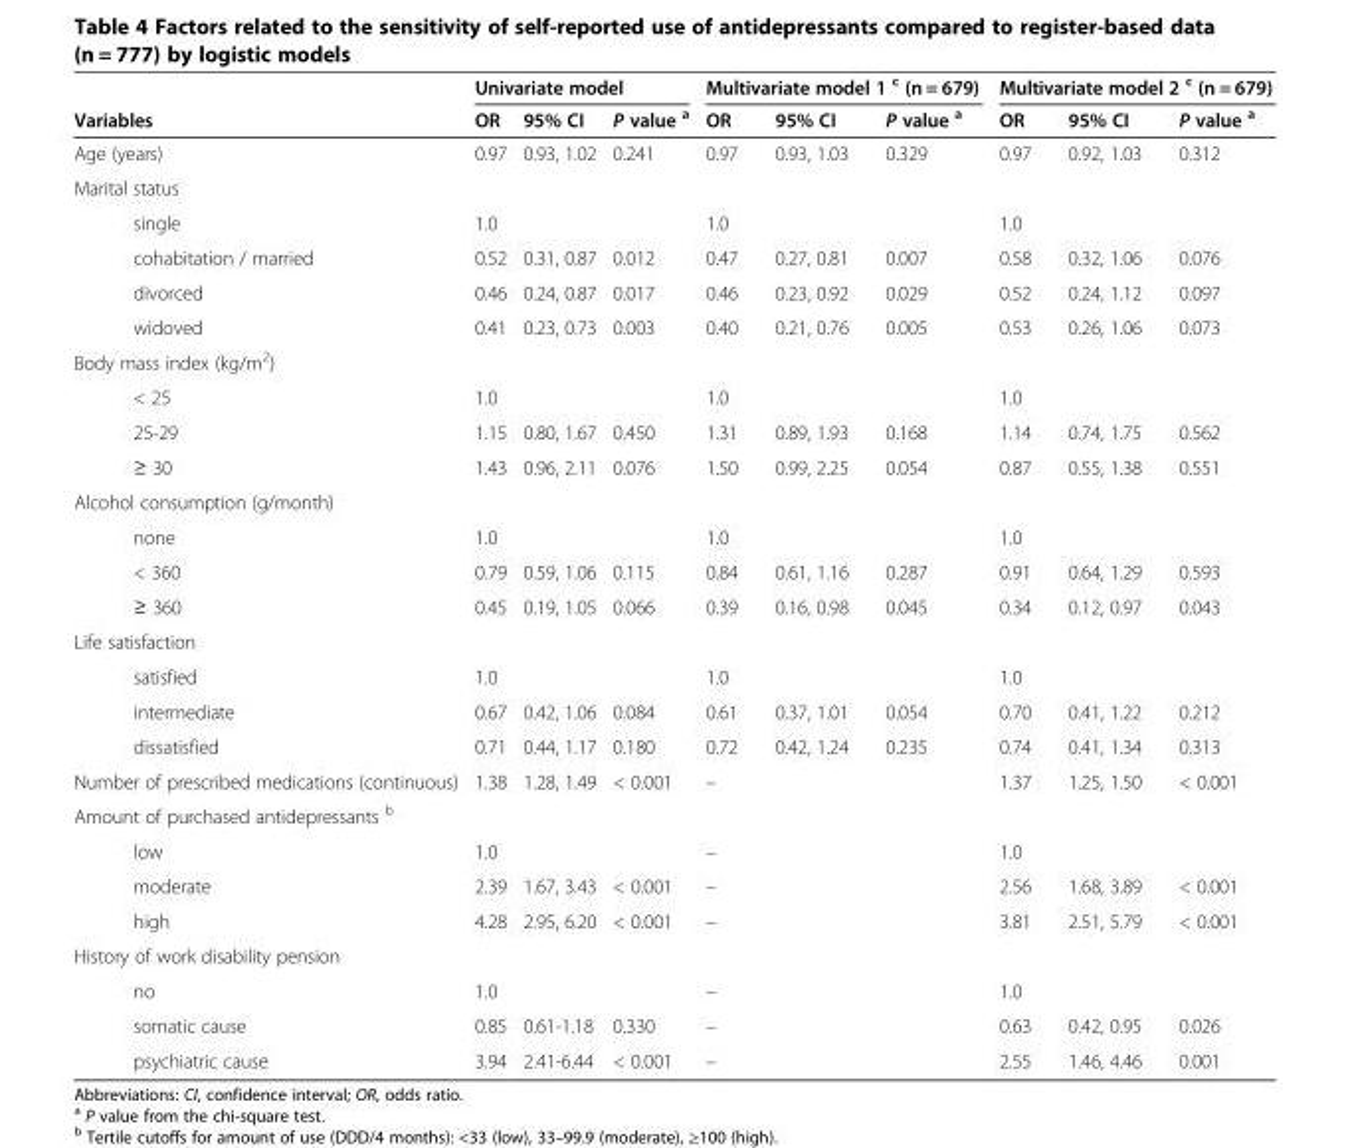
<table><thead><tr><td rowspan="2">Variables</td><td colspan="3">Univariate model</td><td colspan="3">Multivariate model 1 <sup>c</sup> (n = 679)</td><td colspan="3">Multivariate model 2 <sup>c</sup> (n = 679)</td></tr><tr><td>OR</td><td>95% CI</td><td>P value <sup>a</sup></td><td>OR</td><td>95% CI</td><td>P value <sup>a</sup></td><td>OR</td><td>95% CI</td><td>P value <sup>a</sup></td></tr></thead><tbody><tr><td>Age (years)</td><td>0.97</td><td>0.93, 1.02</td><td>0.241</td><td>0.97</td><td>0.93, 1.03</td><td>0.329</td><td>0.97</td><td>0.92, 1.03</td><td>0.312</td></tr><tr><td colspan="10">Marital status</td></tr><tr><td>single</td><td>1.0</td><td></td><td></td><td>1.0</td><td></td><td></td><td>1.0</td><td></td><td></td></tr><tr><td>cohabitation / married</td><td>0.52</td><td>0.31, 0.87</td><td>0.012</td><td>0.47</td><td>0.27, 0.81</td><td>0.007</td><td>0.58</td><td>0.32, 1.06</td><td>0.076</td></tr><tr><td>divorced</td><td>0.46</td><td>0.24, 0.87</td><td>0.017</td><td>0.46</td><td>0.23, 0.92</td><td>0.029</td><td>0.52</td><td>0.24, 1.12</td><td>0.097</td></tr><tr><td>widoved</td><td>0.41</td><td>0.23, 0.73</td><td>0.003</td><td>0.40</td><td>0.21, 0.76</td><td>0.005</td><td>0.53</td><td>0.26, 1.06</td><td>0.073</td></tr><tr><td colspan="10">Body mass index (kg/m<sup>2</sup>)</td></tr><tr><td>&lt; 25</td><td>1.0</td><td></td><td></td><td>1.0</td><td></td><td></td><td>1.0</td><td></td><td></td></tr><tr><td>25-29</td><td>1.15</td><td>0.80, 1.67</td><td>0.450</td><td>1.31</td><td>0.89, 1.93</td><td>0.168</td><td>1.14</td><td>0.74, 1.75</td><td>0.562</td></tr><tr><td>≥ 30</td><td>1.43</td><td>0.96, 2.11</td><td>0.076</td><td>1.50</td><td>0.99, 2.25</td><td>0.054</td><td>0.87</td><td>0.55, 1.38</td><td>0.551</td></tr><tr><td colspan="10">Alcohol consumption (g/month)</td></tr><tr><td>none</td><td>1.0</td><td></td><td></td><td>1.0</td><td></td><td></td><td>1.0</td><td></td><td></td></tr><tr><td>&lt; 360</td><td>0.79</td><td>0.59, 1.06</td><td>0.115</td><td>0.84</td><td>0.61, 1.16</td><td>0.287</td><td>0.91</td><td>0.64, 1.29</td><td>0.593</td></tr><tr><td>≥ 360</td><td>0.45</td><td>0.19, 1.05</td><td>0.066</td><td>0.39</td><td>0.16, 0.98</td><td>0.045</td><td>0.34</td><td>0.12, 0.97</td><td>0.043</td></tr><tr><td colspan="10">Life satisfaction</td></tr><tr><td>satisfied</td><td>1.0</td><td></td><td></td><td>1.0</td><td></td><td></td><td>1.0</td><td></td><td></td></tr><tr><td>intermediate</td><td>0.67</td><td>0.42, 1.06</td><td>0.084</td><td>0.61</td><td>0.37, 1.01</td><td>0.054</td><td>0.70</td><td>0.41, 1.22</td><td>0.212</td></tr><tr><td>dissatisfied</td><td>0.71</td><td>0.44, 1.17</td><td>0.180</td><td>0.72</td><td>0.42, 1.24</td><td>0.235</td><td>0.74</td><td>0.41, 1.34</td><td>0.313</td></tr><tr><td>Number of prescribed medications (continuous)</td><td>1.38</td><td>1.28, 1.49</td><td>&lt; 0.001</td><td>–</td><td></td><td></td><td>1.37</td><td>1.25, 1.50</td><td>&lt; 0.001</td></tr><tr><td colspan="10">Amount of purchased antidepressants <sup>b</sup></td></tr><tr><td>low</td><td>1.0</td><td></td><td></td><td>–</td><td></td><td></td><td>1.0</td><td></td><td></td></tr><tr><td>moderate</td><td>2.39</td><td>1.67, 3.43</td><td>&lt; 0.001</td><td>–</td><td></td><td></td><td>2.56</td><td>1.68, 3.89</td><td>&lt; 0.001</td></tr><tr><td>high</td><td>4.28</td><td>2.95, 6.20</td><td>&lt; 0.001</td><td>–</td><td></td><td></td><td>3.81</td><td>2.51, 5.79</td><td>&lt; 0.001</td></tr><tr><td colspan="10">History of work disability pension</td></tr><tr><td>no</td><td>1.0</td><td></td><td></td><td>–</td><td></td><td></td><td>1.0</td><td></td><td></td></tr><tr><td>somatic cause</td><td>0.85</td><td>0.61-1.18</td><td>0.330</td><td>–</td><td></td><td></td><td>0.63</td><td>0.42, 0.95</td><td>0.026</td></tr><tr><td>psychiatric cause</td><td>3.94</td><td>2.41-6.44</td><td>&lt; 0.001</td><td>–</td><td></td><td></td><td>2.55</td><td>1.46, 4.46</td><td>0.001</td></tr></tbody></table>